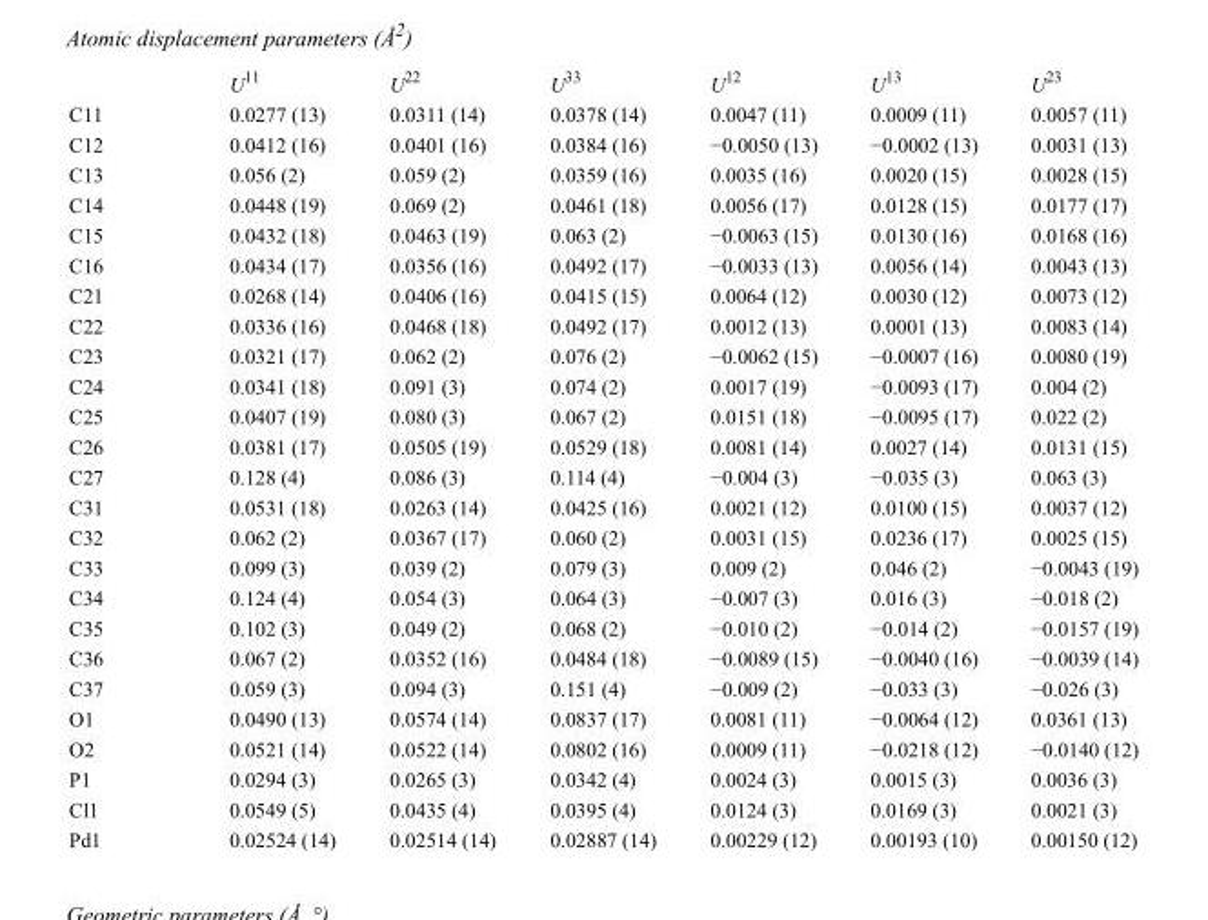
<table><thead><tr><td></td><td>U<sup>11</sup></td><td>U<sup>22</sup></td><td>U<sup>33</sup></td><td>U<sup>12</sup></td><td>U<sup>13</sup></td><td>U<sup>23</sup></td></tr></thead><tbody><tr><td>C11</td><td>0.0277 (13)</td><td>0.0311 (14)</td><td>0.0378 (14)</td><td>0.0047 (11)</td><td>0.0009 (11)</td><td>0.0057 (11)</td></tr><tr><td>C12</td><td>0.0412 (16)</td><td>0.0401 (16)</td><td>0.0384 (16)</td><td>−0.0050 (13)</td><td>−0.0002 (13)</td><td>0.0031 (13)</td></tr><tr><td>C13</td><td>0.056 (2)</td><td>0.059 (2)</td><td>0.0359 (16)</td><td>0.0035 (16)</td><td>0.0020 (15)</td><td>0.0028 (15)</td></tr><tr><td>C14</td><td>0.0448 (19)</td><td>0.069 (2)</td><td>0.0461 (18)</td><td>0.0056 (17)</td><td>0.0128 (15)</td><td>0.0177 (17)</td></tr><tr><td>C15</td><td>0.0432 (18)</td><td>0.0463 (19)</td><td>0.063 (2)</td><td>−0.0063 (15)</td><td>0.0130 (16)</td><td>0.0168 (16)</td></tr><tr><td>C16</td><td>0.0434 (17)</td><td>0.0356 (16)</td><td>0.0492 (17)</td><td>−0.0033 (13)</td><td>0.0056 (14)</td><td>0.0043 (13)</td></tr><tr><td>C21</td><td>0.0268 (14)</td><td>0.0406 (16)</td><td>0.0415 (15)</td><td>0.0064 (12)</td><td>0.0030 (12)</td><td>0.0073 (12)</td></tr><tr><td>C22</td><td>0.0336 (16)</td><td>0.0468 (18)</td><td>0.0492 (17)</td><td>0.0012 (13)</td><td>0.0001 (13)</td><td>0.0083 (14)</td></tr><tr><td>C23</td><td>0.0321 (17)</td><td>0.062 (2)</td><td>0.076 (2)</td><td>−0.0062 (15)</td><td>−0.0007 (16)</td><td>0.0080 (19)</td></tr><tr><td>C24</td><td>0.0341 (18)</td><td>0.091 (3)</td><td>0.074 (2)</td><td>0.0017 (19)</td><td>−0.0093 (17)</td><td>0.004 (2)</td></tr><tr><td>C25</td><td>0.0407 (19)</td><td>0.080 (3)</td><td>0.067 (2)</td><td>0.0151 (18)</td><td>−0.0095 (17)</td><td>0.022 (2)</td></tr><tr><td>C26</td><td>0.0381 (17)</td><td>0.0505 (19)</td><td>0.0529 (18)</td><td>0.0081 (14)</td><td>0.0027 (14)</td><td>0.0131 (15)</td></tr><tr><td>C27</td><td>0.128 (4)</td><td>0.086 (3)</td><td>0.114 (4)</td><td>−0.004 (3)</td><td>−0.035 (3)</td><td>0.063 (3)</td></tr><tr><td>C31</td><td>0.0531 (18)</td><td>0.0263 (14)</td><td>0.0425 (16)</td><td>0.0021 (12)</td><td>0.0100 (15)</td><td>0.0037 (12)</td></tr><tr><td>C32</td><td>0.062 (2)</td><td>0.0367 (17)</td><td>0.060 (2)</td><td>0.0031 (15)</td><td>0.0236 (17)</td><td>0.0025 (15)</td></tr><tr><td>C33</td><td>0.099 (3)</td><td>0.039 (2)</td><td>0.079 (3)</td><td>0.009 (2)</td><td>0.046 (2)</td><td>−0.0043 (19)</td></tr><tr><td>C34</td><td>0.124 (4)</td><td>0.054 (3)</td><td>0.064 (3)</td><td>−0.007 (3)</td><td>0.016 (3)</td><td>−0.018 (2)</td></tr><tr><td>C35</td><td>0.102 (3)</td><td>0.049 (2)</td><td>0.068 (2)</td><td>−0.010 (2)</td><td>−0.014 (2)</td><td>−0.0157 (19)</td></tr><tr><td>C36</td><td>0.067 (2)</td><td>0.0352 (16)</td><td>0.0484 (18)</td><td>−0.0089 (15)</td><td>−0.0040 (16)</td><td>−0.0039 (14)</td></tr><tr><td>C37</td><td>0.059 (3)</td><td>0.094 (3)</td><td>0.151 (4)</td><td>−0.009 (2)</td><td>−0.033 (3)</td><td>−0.026 (3)</td></tr><tr><td>O1</td><td>0.0490 (13)</td><td>0.0574 (14)</td><td>0.0837 (17)</td><td>0.0081 (11)</td><td>−0.0064 (12)</td><td>0.0361 (13)</td></tr><tr><td>O2</td><td>0.0521 (14)</td><td>0.0522 (14)</td><td>0.0802 (16)</td><td>0.0009 (11)</td><td>−0.0218 (12)</td><td>−0.0140 (12)</td></tr><tr><td>P1</td><td>0.0294 (3)</td><td>0.0265 (3)</td><td>0.0342 (4)</td><td>0.0024 (3)</td><td>0.0015 (3)</td><td>0.0036 (3)</td></tr><tr><td>Cl1</td><td>0.0549 (5)</td><td>0.0435 (4)</td><td>0.0395 (4)</td><td>0.0124 (3)</td><td>0.0169 (3)</td><td>0.0021 (3)</td></tr><tr><td>Pd1</td><td>0.02524 (14)</td><td>0.02514 (14)</td><td>0.02887 (14)</td><td>0.00229 (12)</td><td>0.00193 (10)</td><td>0.00150 (12)</td></tr></tbody></table>